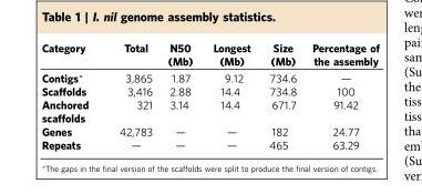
<table><thead><tr><td>Category</td><td>Total</td><td>N50 (Mb)</td><td>Longest (Mb)</td><td>Size (Mb)</td><td>Percentage of the assembly</td></tr></thead><tbody><tr><td>Contigs*</td><td>3,865</td><td>1.87</td><td>9.12</td><td>734.6</td><td>—</td></tr><tr><td>Scaffolds</td><td>3,416</td><td>2.88</td><td>14.4</td><td>734.8</td><td>100</td></tr><tr><td>Anchored scaffolds</td><td>321</td><td>3.14</td><td>14.4</td><td>671.7</td><td>91.42</td></tr><tr><td>Genes</td><td>42,783</td><td>—</td><td>—</td><td>182</td><td>24.77</td></tr><tr><td>Repeats</td><td>—</td><td>—</td><td>—</td><td>465</td><td>63.29</td></tr></tbody></table>